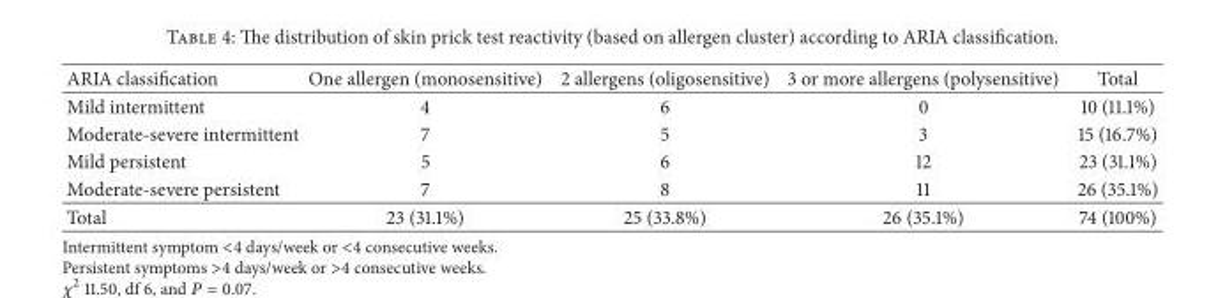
<table><thead><tr><td>ARIA classification</td><td>One allergen (monosensitive)</td><td>2 allergens (oligosensitive)</td><td>3 or more allergens (polysensitive)</td><td>Total</td></tr></thead><tbody><tr><td>Mild intermittent</td><td>4</td><td>6</td><td>0</td><td>10 (11.1%)</td></tr><tr><td>Moderate-severe intermittent</td><td>7</td><td>5</td><td>3</td><td>15 (16.7%)</td></tr><tr><td>Mild persistent</td><td>5</td><td>6</td><td>12</td><td>23 (31.1%)</td></tr><tr><td>Moderate-severe persistent</td><td>7</td><td>8</td><td>11</td><td>26 (35.1%)</td></tr><tr><td>Total</td><td>23 (31.1%)</td><td>25 (33.8%)</td><td>26 (35.1%)</td><td>74 (100%)</td></tr></tbody></table>